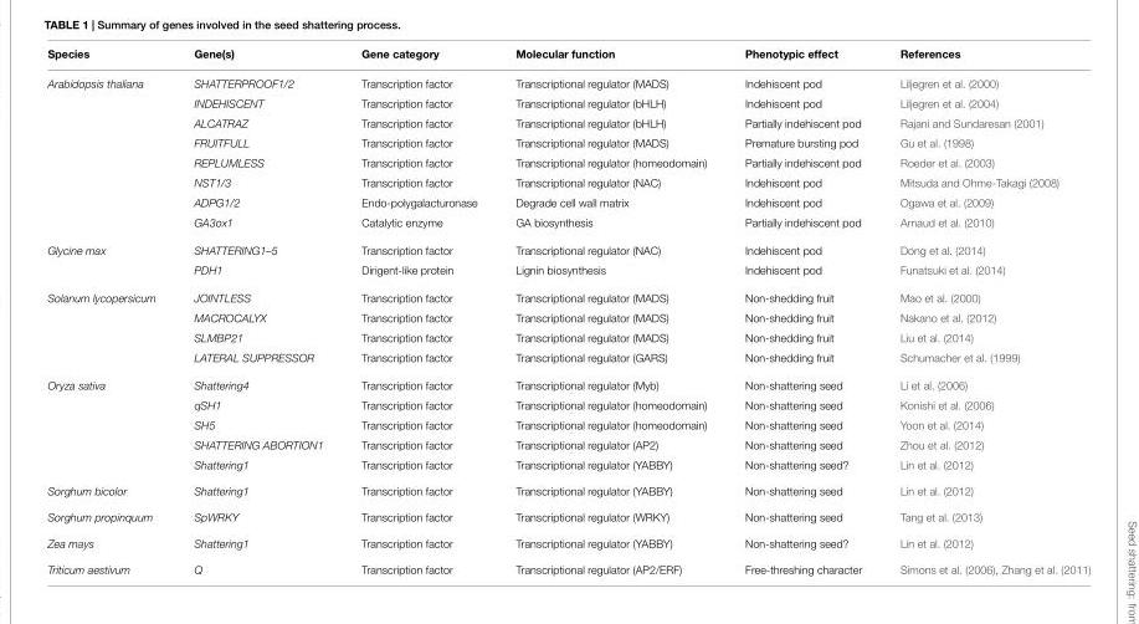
<table><thead><tr><td>Species</td><td>Gene(s)</td><td>Gene category</td><td>Molecular function</td><td>Phenotypic effect</td><td>References</td></tr></thead><tbody><tr><td rowspan="8">Arabidopsis thaliana</td><td>SHATTERPROOF1/2</td><td>Transcription factor</td><td>Transcriptional regulator (MADS)</td><td>Indehiscent pod</td><td>Liljegren et al. (2000)</td></tr><tr><td>INDEHISCENT</td><td>Transcription factor</td><td>Transcriptional regulator (bHLH)</td><td>Indehiscent pod</td><td>Liljegren et al. (2004)</td></tr><tr><td>ALCATRAZ</td><td>Transcription factor</td><td>Transcriptional regulator (bHLH)</td><td>Partially indehiscent pod</td><td>Rajani and Sundaresan (2001)</td></tr><tr><td>FRUITFULL</td><td>Transcription factor</td><td>Transcriptional regulator (MADS)</td><td>Premature bursting pod</td><td>Gu et al. (1998)</td></tr><tr><td>REPLUMLESS</td><td>Transcription factor</td><td>Transcriptional regulator (homeodomain)</td><td>Partially indehiscent pod</td><td>Roeder et al. (2003)</td></tr><tr><td>NST1/3</td><td>Transcription factor</td><td>Transcriptional regulator (NAC)</td><td>Indehiscent pod</td><td>Mitsuda and Ohme-Takagi (2008)</td></tr><tr><td>ADPG1/2</td><td>Endo-polygalacturonase</td><td>Degrade cell wall matrix</td><td>Indehiscent pod</td><td>Ogawa et al. (2009)</td></tr><tr><td>GA3ox1</td><td>Catalytic enzyme</td><td>GA biosynthesis</td><td>Partially indehiscent pod</td><td>Arnaud et al. (2010)</td></tr><tr><td rowspan="2">Glycine max</td><td>SHATTERING1–5</td><td>Transcription factor</td><td>Transcriptional regulator (NAC)</td><td>Indehiscent pod</td><td>Dong et al. (2014)</td></tr><tr><td>PDH1</td><td>Dirigent-like protein</td><td>Lignin biosynthesis</td><td>Indehiscent pod</td><td>Funatsuki et al. (2014)</td></tr><tr><td rowspan="4">Solanum lycopersicum</td><td>JOINTLESS</td><td>Transcription factor</td><td>Transcriptional regulator (MADS)</td><td>Non-shedding fruit</td><td>Mao et al. (2000)</td></tr><tr><td>MACROCALYX</td><td>Transcription factor</td><td>Transcriptional regulator (MADS)</td><td>Non-shedding fruit</td><td>Nakano et al. (2012)</td></tr><tr><td>SLMBP21</td><td>Transcription factor</td><td>Transcriptional regulator (MADS)</td><td>Non-shedding fruit</td><td>Liu et al. (2014)</td></tr><tr><td>LATERAL SUPPRESSOR</td><td>Transcription factor</td><td>Transcriptional regulator (GARS)</td><td>Non-shedding fruit</td><td>Schumacher et al. (1999)</td></tr><tr><td rowspan="5">Oryza sativa</td><td>Shattering4</td><td>Transcription factor</td><td>Transcriptional regulator (Myb)</td><td>Non-shattering seed</td><td>Li et al. (2006)</td></tr><tr><td>qSH1</td><td>Transcription factor</td><td>Transcriptional regulator (homeodomain)</td><td>Non-shattering seed</td><td>Konishi et al. (2006)</td></tr><tr><td>SH5</td><td>Transcription factor</td><td>Transcriptional regulator (homeodomain)</td><td>Non-shattering seed</td><td>Yoon et al. (2014)</td></tr><tr><td>SHATTERING ABORTION1</td><td>Transcription factor</td><td>Transcriptional regulator (AP2)</td><td>Non-shattering seed</td><td>Zhou et al. (2012)</td></tr><tr><td>Shattering1</td><td>Transcription factor</td><td>Transcriptional regulator (YABBY)</td><td>Non-shattering seed?</td><td>Lin et al. (2012)</td></tr><tr><td>Sorghum bicolor</td><td>Shattering1</td><td>Transcription factor</td><td>Transcriptional regulator (YABBY)</td><td>Non-shattering seed</td><td>Lin et al. (2012)</td></tr><tr><td>Sorghum propinquum</td><td>SpWRKY</td><td>Transcription factor</td><td>Transcriptional regulator (WRKY)</td><td>Non-shattering seed</td><td>Tang et al. (2013)</td></tr><tr><td>Zea mays</td><td>Shattering1</td><td>Transcription factor</td><td>Transcriptional regulator (YABBY)</td><td>Non-shattering seed?</td><td>Lin et al. (2012)</td></tr><tr><td>Triticum aestivum</td><td>Q</td><td>Transcription factor</td><td>Transcriptional regulator (AP2/ERF)</td><td>Free-threshing character</td><td>Simons et al. (2006), Zhang et al. (2011)</td></tr></tbody></table>